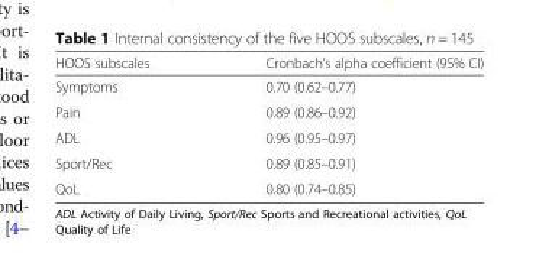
<table><thead><tr><td>HOOS subscales</td><td>Cronbach’s alpha coefficient (95% CI)</td></tr></thead><tbody><tr><td>Symptoms</td><td>0.70 (0.62–0.77)</td></tr><tr><td>Pain</td><td>0.89 (0.86–0.92)</td></tr><tr><td>ADL</td><td>0.96 (0.95–0.97)</td></tr><tr><td>Sport/Rec</td><td>0.89 (0.85–0.91)</td></tr><tr><td>QoL</td><td>0.80 (0.74–0.85)</td></tr></tbody></table>